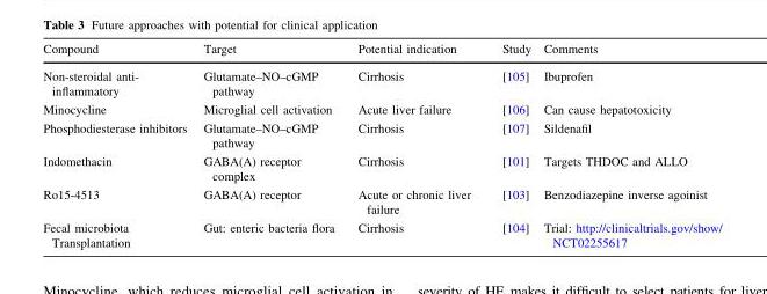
<table><thead><tr><td>Compound</td><td>Target</td><td>Potential indication</td><td>Study</td><td>Comments</td></tr></thead><tbody><tr><td>Non-steroidal anti- inflammatory</td><td>Glutamate–NO–cGMP pathway</td><td>Cirrhosis</td><td>[105]</td><td>Ibuprofen</td></tr><tr><td>Minocycline</td><td>Microglial cell activation</td><td>Acute liver failure</td><td>[106]</td><td>Can cause hepatotoxicity</td></tr><tr><td>Phosphodiesterase inhibitors</td><td>Glutamate–NO–cGMP pathway</td><td>Cirrhosis</td><td>[107]</td><td>Sildenafil</td></tr><tr><td>Indomethacin</td><td>GABA(A) receptor complex</td><td>Cirrhosis</td><td>[101]</td><td>Targets THDOC and ALLO</td></tr><tr><td>Ro15-4513</td><td>GABA(A) receptor</td><td>Acute or chronic liver failure</td><td>[103]</td><td>Benzodiazepine inverse agoinist</td></tr><tr><td>Fecal microbiota Transplantation</td><td>Gut: enteric bacteria flora</td><td>Cirrhosis</td><td>[104]</td><td>Trial: http://clinicaltrials.gov/show/ NCT02255617</td></tr></tbody></table>